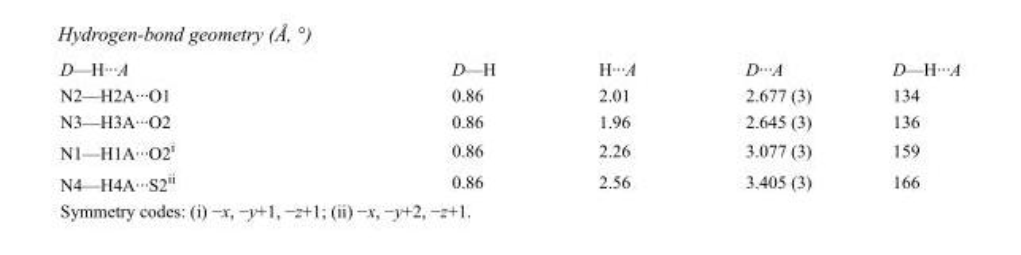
<table><tbody><tr><td>D—H···A</td><td>D—H</td><td>H···A</td><td>D···A</td><td>D—H···A</td></tr><tr><td>N2—H2A···O1</td><td>0.86</td><td>2.01</td><td>2.677 (3)</td><td>134</td></tr><tr><td>N3—H3A···O2</td><td>0.86</td><td>1.96</td><td>2.645 (3)</td><td>136</td></tr><tr><td>N1—H1A···O2<sup>i</sup></td><td>0.86</td><td>2.26</td><td>3.077 (3)</td><td>159</td></tr><tr><td>N4—H4A···S2<sup>ii</sup></td><td>0.86</td><td>2.56</td><td>3.405 (3)</td><td>166</td></tr></tbody></table>